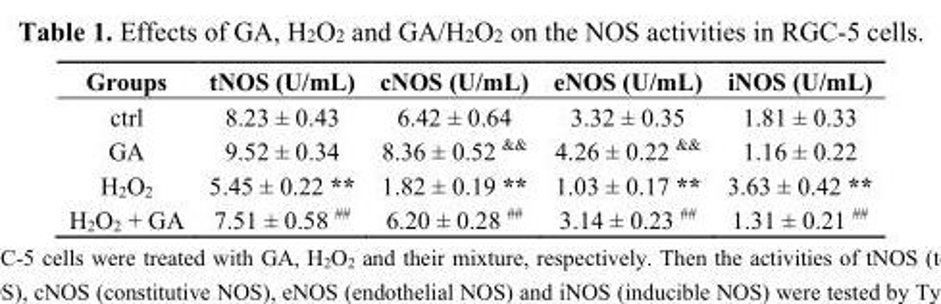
<table><thead><tr><td>Groups</td><td>tNOS (U/mL)</td><td>cNOS (U/mL)</td><td>eNOS (U/mL)</td><td>iNOS (U/mL)</td></tr></thead><tbody><tr><td>ctrl</td><td>8.23 ± 0.43</td><td>6.42 ± 0.64</td><td>3.32 ± 0.35</td><td>1.81 ± 0.33</td></tr><tr><td>GA</td><td>9.52 ± 0.34</td><td>8.36 ± 0.52 <sup>&amp;&amp;</sup></td><td>4.26 ± 0.22 <sup>&amp;&amp;</sup></td><td>1.16 ± 0.22</td></tr><tr><td>H<sub>2</sub>O<sub>2</sub></td><td>5.45 ± 0.22 **</td><td>1.82 ± 0.19 **</td><td>1.03 ± 0.17 **</td><td>3.63 ± 0.42 **</td></tr><tr><td>H<sub>2</sub>O<sub>2</sub> + GA</td><td>7.51 ± 0.58 <sup>##</sup></td><td>6.20 ± 0.28 <sup>##</sup></td><td>3.14 ± 0.23 <sup>##</sup></td><td>1.31 ± 0.21 <sup>##</sup></td></tr></tbody></table>